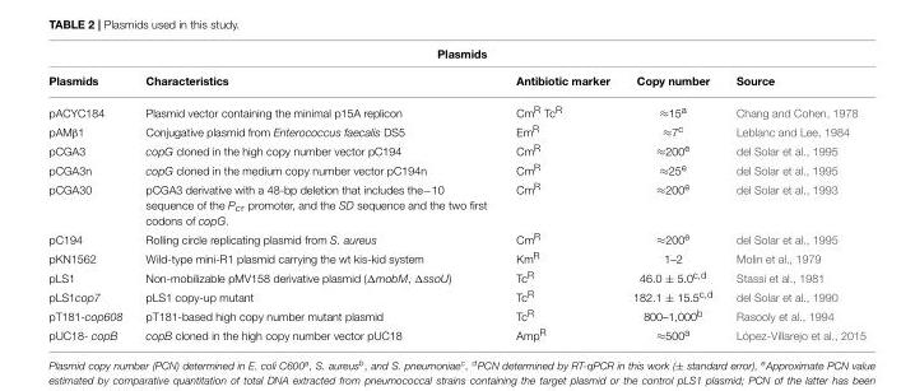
<table><thead><tr><td colspan="5">Plasmids</td></tr><tr><td>Plasmids</td><td>Characteristics</td><td>Antibiotic marker</td><td>Copy number</td><td>Source</td></tr></thead><tbody><tr><td>pACYC184</td><td>Plasmid vector containing the minimal p15A replicon</td><td>Cm<sup>R</sup> Tc<sup>R</sup></td><td>≈15<sup>a</sup></td><td>Chang and Cohen, 1978</td></tr><tr><td>pAMβ1</td><td>Conjugative plasmid from Enterococcus faecalis DS5</td><td>Em<sup>R</sup></td><td>≈7<sup>c</sup></td><td>Leblanc and Lee, 1984</td></tr><tr><td>pCGA3</td><td>copG cloned in the high copy number vector pC194</td><td>Cm<sup>R</sup></td><td>≈200<sup>e</sup></td><td>del Solar et al., 1995</td></tr><tr><td>pCGA3n</td><td>copG cloned in the medium copy number vector pC194n</td><td>Cm<sup>R</sup></td><td>≈25<sup>e</sup></td><td>del Solar et al., 1995</td></tr><tr><td>pCGA30</td><td>pCGA3 derivative with a 48-bp deletion that includes the−10 sequence of the Pcr promoter, and the SD sequence and the two first codons of copG.</td><td>Cm<sup>R</sup></td><td>≈200<sup>e</sup></td><td>del Solar et al., 1993</td></tr><tr><td>pC194</td><td>Rolling circle replicating plasmid from S. aureus</td><td>Cm<sup>R</sup></td><td>≈200<sup>e</sup></td><td>del Solar et al., 1995</td></tr><tr><td>pKN1562</td><td>Wild-type mini-R1 plasmid carrying the wt kis-kid system</td><td>Km<sup>R</sup></td><td>1–2</td><td>Molin et al., 1979</td></tr><tr><td>pLS1</td><td>Non-mobilizable pMV158 derivative plasmid (ΔmobM, ΔssoU)</td><td>Tc<sup>R</sup></td><td>46.0 ± 5.0<sup>c,d</sup></td><td>Stassi et al., 1981</td></tr><tr><td>pLS1cop7</td><td>pLS1 copy-up mutant</td><td>Tc<sup>R</sup></td><td>182.1 ± 15.5<sup>c,d</sup></td><td>del Solar et al., 1990</td></tr><tr><td>pT181-cop608</td><td>pT181-based high copy number mutant plasmid</td><td>Tc<sup>R</sup></td><td>800–1,000<sup>b</sup></td><td>Rasooly et al., 1994</td></tr><tr><td>pUC18- copB</td><td>copB cloned in the high copy number vector pUC18</td><td>Amp<sup>R</sup></td><td>≈500<sup>a</sup></td><td>López-Villarejo et al., 2015</td></tr></tbody></table>